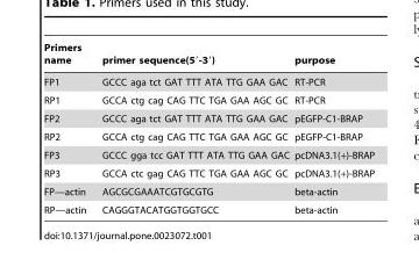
<table><thead><tr><td>Primers name</td><td>primer sequence(5′-3′)</td><td>purpose</td></tr></thead><tbody><tr><td>FP1</td><td>GCCC aga tct GAT TTT ATA TTG GAA GAC</td><td>RT-PCR</td></tr><tr><td>RP1</td><td>GCCA ctg cag CAG TTC TGA GAA AGC GC</td><td>RT-PCR</td></tr><tr><td>FP2</td><td>GCCC aga tct GAT TTT ATA TTG GAA GAC</td><td>pEGFP-C1-BRAP</td></tr><tr><td>RP2</td><td>GCCA ctg cag CAG TTC TGA GAA AGC GC</td><td>pEGFP-C1-BRAP</td></tr><tr><td>FP3</td><td>GCCC gga tcc GAT TTT ATA TTG GAA GAC</td><td>pcDNA3.1(+)-BRAP</td></tr><tr><td>RP3</td><td>GCCA ctc gag CAG TTC TGA GAA AGC GC</td><td>pcDNA3.1(+)-BRAP</td></tr><tr><td>FP—actin</td><td>AGCGCGAAATCGTGCGTG</td><td>beta-actin</td></tr><tr><td>RP—actin</td><td>CAGGGTACATGGTGGTGCC</td><td>beta-actin</td></tr></tbody></table>